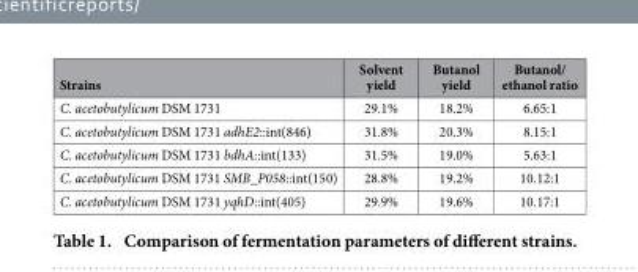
<table><thead><tr><td>Strains</td><td>Solvent yield</td><td>Butanol yield</td><td>Butanol/ ethanol ratio</td></tr></thead><tbody><tr><td>C. acetobutylicum DSM 1731</td><td>29.1%</td><td>18.2%</td><td>6.65:1</td></tr><tr><td>C. acetobutylicum DSM 1731 adhE2::int(846)</td><td>31.8%</td><td>20.3%</td><td>8.15:1</td></tr><tr><td>C. acetobutylicum DSM 1731 bdhA::int(133)</td><td>31.5%</td><td>19.0%</td><td>5.63:1</td></tr><tr><td>C. acetobutylicum DSM 1731 SMB_P058::int(150)</td><td>28.8%</td><td>19.2%</td><td>10.12:1</td></tr><tr><td>C. acetobutylicum DSM 1731 yqhD::int(405)</td><td>29.9%</td><td>19.6%</td><td>10.17:1</td></tr></tbody></table>